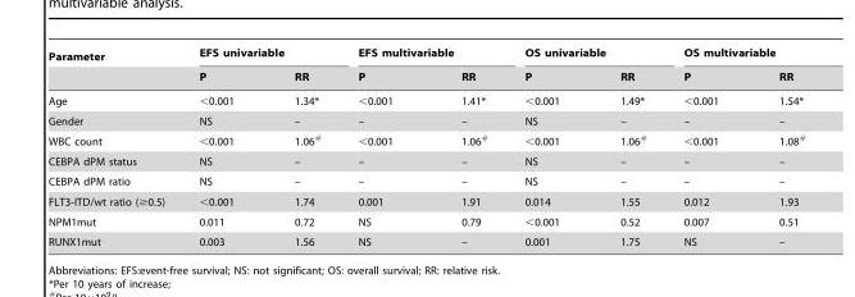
<table><thead><tr><td rowspan="2">Parameter</td><td colspan="2">EFS univariable</td><td colspan="2">EFS multivariable</td><td colspan="2">OS univariable</td><td colspan="2">OS multivariable</td></tr><tr><td>P</td><td>RR</td><td>P</td><td>RR</td><td>P</td><td>RR</td><td>P</td><td>RR</td></tr></thead><tbody><tr><td>Age</td><td>&lt;0.001</td><td>1.34*</td><td>&lt;0.001</td><td>1.41*</td><td>&lt;0.001</td><td>1.49*</td><td>&lt;0.001</td><td>1.54*</td></tr><tr><td>Gender</td><td>NS</td><td>–</td><td>–</td><td>–</td><td>NS</td><td>–</td><td>–</td><td>–</td></tr><tr><td>WBC count</td><td>&lt;0.001</td><td>1.06#</td><td>&lt;0.001</td><td>1.06#</td><td>&lt;0.001</td><td>1.06#</td><td>&lt;0.001</td><td>1.08#</td></tr><tr><td>CEBPA dPM status</td><td>NS</td><td>–</td><td>–</td><td>–</td><td>NS</td><td>–</td><td>–</td><td>–</td></tr><tr><td>CEBPA dPM ratio</td><td>NS</td><td>–</td><td>–</td><td>–</td><td>NS</td><td>–</td><td>–</td><td>–</td></tr><tr><td>FLT3-ITD/wt ratio (≥0.5)</td><td>&lt;0.001</td><td>1.74</td><td>0.001</td><td>1.91</td><td>0.014</td><td>1.55</td><td>0.012</td><td>1.93</td></tr><tr><td>NPM1mut</td><td>0.011</td><td>0.72</td><td>NS</td><td>0.79</td><td>&lt;0.001</td><td>0.52</td><td>0.007</td><td>0.51</td></tr><tr><td>RUNX1mut</td><td>0.003</td><td>1.56</td><td>NS</td><td>–</td><td>0.001</td><td>1.75</td><td>NS</td><td>–</td></tr></tbody></table>